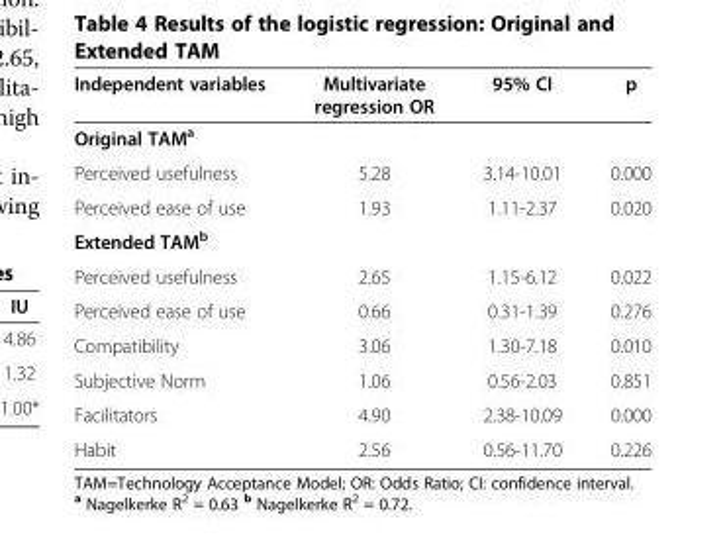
<table><thead><tr><td>Independent variables</td><td>Multivariate regression OR</td><td>95% CI</td><td>p</td></tr></thead><tbody><tr><td colspan="4">Original TAM<sup>a</sup></td></tr><tr><td>Perceived usefulness</td><td>5.28</td><td>3.14-10.01</td><td>0.000</td></tr><tr><td>Perceived ease of use</td><td>1.93</td><td>1.11-2.37</td><td>0.020</td></tr><tr><td colspan="4">Extended TAM<sup>b</sup></td></tr><tr><td>Perceived usefulness</td><td>2.65</td><td>1.15-6.12</td><td>0.022</td></tr><tr><td>Perceived ease of use</td><td>0.66</td><td>0.31-1.39</td><td>0.276</td></tr><tr><td>Compatibility</td><td>3.06</td><td>1.30-7.18</td><td>0.010</td></tr><tr><td>Subjective Norm</td><td>1.06</td><td>0.56-2.03</td><td>0.851</td></tr><tr><td>Facilitators</td><td>4.90</td><td>2.38-10.09</td><td>0.000</td></tr><tr><td>Habit</td><td>2.56</td><td>0.56-11.70</td><td>0.226</td></tr></tbody></table>